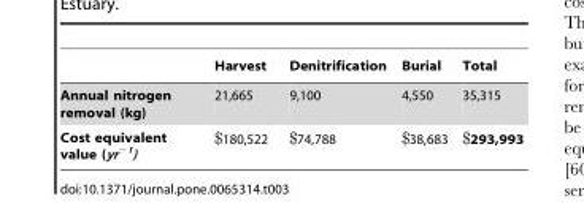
<table><thead><tr><td></td><td>Harvest</td><td>Denitrification</td><td>Burial</td><td>Total</td></tr></thead><tbody><tr><td>Annual nitrogen removal (kg)</td><td>21,665</td><td>9,100</td><td>4,550</td><td>35,315</td></tr><tr><td>Cost equivalent value (yr<sup>−1</sup>)</td><td>$180,522</td><td>$74,788</td><td>$38,683</td><td>$293,993</td></tr></tbody></table>